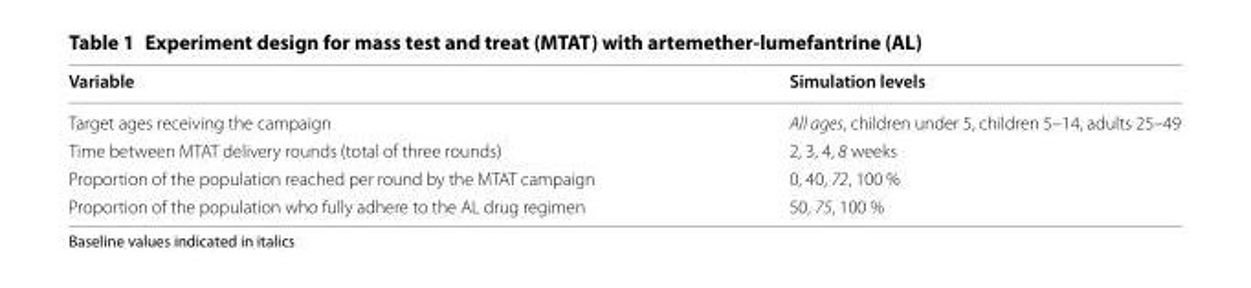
<table><thead><tr><td>Variable</td><td>Simulation levels</td></tr></thead><tbody><tr><td>Target ages receiving the campaign</td><td>All ages, children under 5, children 5–14, adults 25–49</td></tr><tr><td>Time between MTAT delivery rounds (total of three rounds)</td><td>2, 3, 4, 8 weeks</td></tr><tr><td>Proportion of the population reached per round by the MTAT campaign</td><td>0, 40, 72, 100 %</td></tr><tr><td>Proportion of the population who fully adhere to the AL drug regimen</td><td>50, 75, 100 %</td></tr></tbody></table>